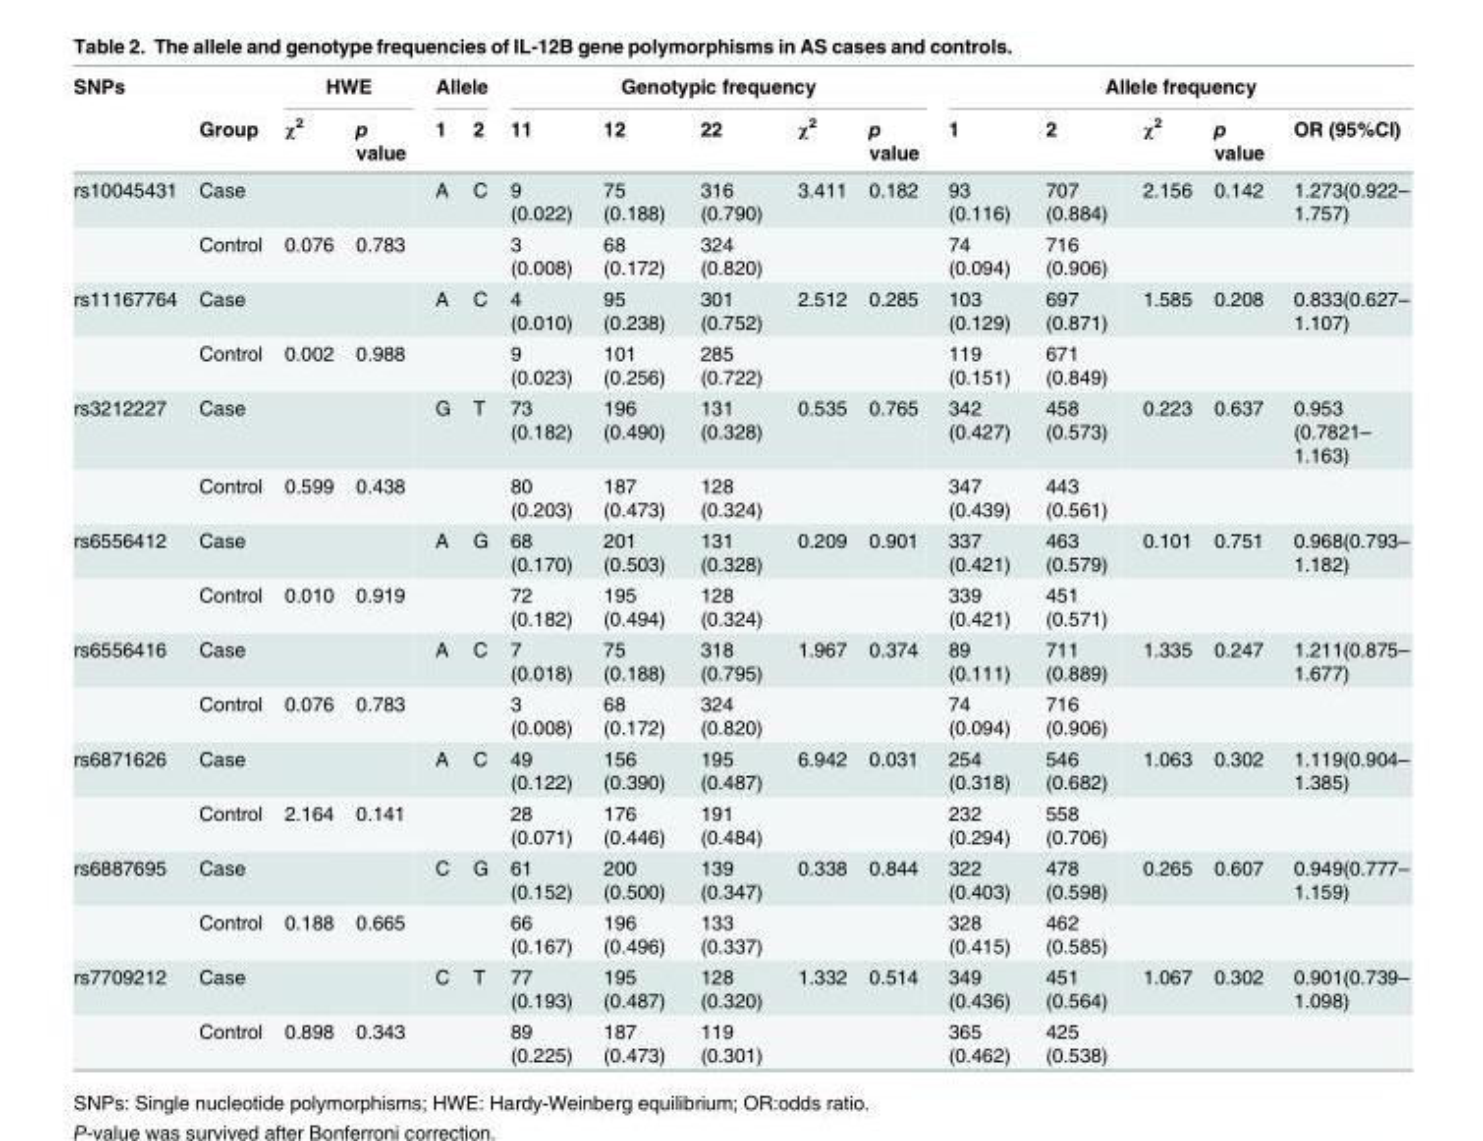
<table><thead><tr><td rowspan="2">SNPs</td><td rowspan="2">Group</td><td colspan="2">HWE</td><td colspan="2">Allele</td><td colspan="5">Genotypic frequency</td><td colspan="5">Allele frequency</td></tr><tr><td>χ<sup>2</sup></td><td>p value</td><td>1</td><td>2</td><td>11</td><td>12</td><td>22</td><td>χ<sup>2</sup></td><td>p value</td><td>1</td><td>2</td><td>χ<sup>2</sup></td><td>p value</td><td>OR (95%CI)</td></tr></thead><tbody><tr><td rowspan="2">rs10045431</td><td>Case</td><td></td><td></td><td>A</td><td>C</td><td>9 (0.022)</td><td>75 (0.188)</td><td>316 (0.790)</td><td>3.411</td><td>0.182</td><td>93 (0.116)</td><td>707 (0.884)</td><td>2.156</td><td>0.142</td><td>1.273(0.922– 1.757)</td></tr><tr><td>Control</td><td>0.076</td><td>0.783</td><td></td><td></td><td>3 (0.008)</td><td>68 (0.172)</td><td>324 (0.820)</td><td></td><td></td><td>74 (0.094)</td><td>716 (0.906)</td><td></td><td></td><td></td></tr><tr><td rowspan="2">rs11167764</td><td>Case</td><td></td><td></td><td>A</td><td>C</td><td>4 (0.010)</td><td>95 (0.238)</td><td>301 (0.752)</td><td>2.512</td><td>0.285</td><td>103 (0.129)</td><td>697 (0.871)</td><td>1.585</td><td>0.208</td><td>0.833(0.627– 1.107)</td></tr><tr><td>Control</td><td>0.002</td><td>0.988</td><td></td><td></td><td>9 (0.023)</td><td>101 (0.256)</td><td>285 (0.722)</td><td></td><td></td><td>119 (0.151)</td><td>671 (0.849)</td><td></td><td></td><td></td></tr><tr><td rowspan="2">rs3212227</td><td>Case</td><td></td><td></td><td>G</td><td>T</td><td>73 (0.182)</td><td>196 (0.490)</td><td>131 (0.328)</td><td>0.535</td><td>0.765</td><td>342 (0.427)</td><td>458 (0.573)</td><td>0.223</td><td>0.637</td><td>0.953 (0.7821– 1.163)</td></tr><tr><td>Control</td><td>0.599</td><td>0.438</td><td></td><td></td><td>80 (0.203)</td><td>187 (0.473)</td><td>128 (0.324)</td><td></td><td></td><td>347 (0.439)</td><td>443 (0.561)</td><td></td><td></td><td></td></tr><tr><td rowspan="2">rs6556412</td><td>Case</td><td></td><td></td><td>A</td><td>G</td><td>68 (0.170)</td><td>201 (0.503)</td><td>131 (0.328)</td><td>0.209</td><td>0.901</td><td>337 (0.421)</td><td>463 (0.579)</td><td>0.101</td><td>0.751</td><td>0.968(0.793– 1.182)</td></tr><tr><td>Control</td><td>0.010</td><td>0.919</td><td></td><td></td><td>72 (0.182)</td><td>195 (0.494)</td><td>128 (0.324)</td><td></td><td></td><td>339 (0.421)</td><td>451 (0.571)</td><td></td><td></td><td></td></tr><tr><td rowspan="2">rs6556416</td><td>Case</td><td></td><td></td><td>A</td><td>C</td><td>7 (0.018)</td><td>75 (0.188)</td><td>318 (0.795)</td><td>1.967</td><td>0.374</td><td>89 (0.111)</td><td>711 (0.889)</td><td>1.335</td><td>0.247</td><td>1.211(0.875– 1.677)</td></tr><tr><td>Control</td><td>0.076</td><td>0.783</td><td></td><td></td><td>3 (0.008)</td><td>68 (0.172)</td><td>324 (0.820)</td><td></td><td></td><td>74 (0.094)</td><td>716 (0.906)</td><td></td><td></td><td></td></tr><tr><td rowspan="2">rs6871626</td><td>Case</td><td></td><td></td><td>A</td><td>C</td><td>49 (0.122)</td><td>156 (0.390)</td><td>195 (0.487)</td><td>6.942</td><td>0.031</td><td>254 (0.318)</td><td>546 (0.682)</td><td>1.063</td><td>0.302</td><td>1.119(0.904– 1.385)</td></tr><tr><td>Control</td><td>2.164</td><td>0.141</td><td></td><td></td><td>28 (0.071)</td><td>176 (0.446)</td><td>191 (0.484)</td><td></td><td></td><td>232 (0.294)</td><td>558 (0.706)</td><td></td><td></td><td></td></tr><tr><td rowspan="2">rs6887695</td><td>Case</td><td></td><td></td><td>C</td><td>G</td><td>61 (0.152)</td><td>200 (0.500)</td><td>139 (0.347)</td><td>0.338</td><td>0.844</td><td>322 (0.403)</td><td>478 (0.598)</td><td>0.265</td><td>0.607</td><td>0.949(0.777– 1.159)</td></tr><tr><td>Control</td><td>0.188</td><td>0.665</td><td></td><td></td><td>66 (0.167)</td><td>196 (0.496)</td><td>133 (0.337)</td><td></td><td></td><td>328 (0.415)</td><td>462 (0.585)</td><td></td><td></td><td></td></tr><tr><td rowspan="2">rs7709212</td><td>Case</td><td></td><td></td><td>C</td><td>T</td><td>77 (0.193)</td><td>195 (0.487)</td><td>128 (0.320)</td><td>1.332</td><td>0.514</td><td>349 (0.436)</td><td>451 (0.564)</td><td>1.067</td><td>0.302</td><td>0.901(0.739– 1.098)</td></tr><tr><td>Control</td><td>0.898</td><td>0.343</td><td></td><td></td><td>89 (0.225)</td><td>187 (0.473)</td><td>119 (0.301)</td><td></td><td></td><td>365 (0.462)</td><td>425 (0.538)</td><td></td><td></td><td></td></tr></tbody></table>